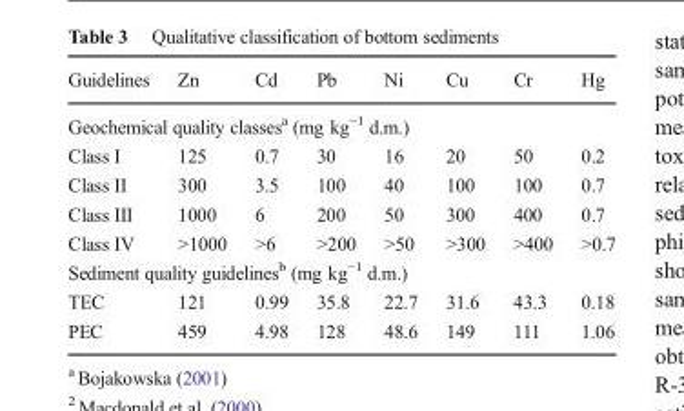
<table><thead><tr><td>Guidelines</td><td>Zn</td><td>Cd</td><td>Pb</td><td>Ni</td><td>Cu</td><td>Cr</td><td>Hg</td></tr></thead><tbody><tr><td colspan="8">Geochemical quality classes<sup>a</sup> (mg kg<sup>−1</sup> d.m.)</td></tr><tr><td>Class I</td><td>125</td><td>0.7</td><td>30</td><td>16</td><td>20</td><td>50</td><td>0.2</td></tr><tr><td>Class II</td><td>300</td><td>3.5</td><td>100</td><td>40</td><td>100</td><td>100</td><td>0.7</td></tr><tr><td>Class III</td><td>1000</td><td>6</td><td>200</td><td>50</td><td>300</td><td>400</td><td>0.7</td></tr><tr><td>Class IV</td><td>&gt;1000</td><td>&gt;6</td><td>&gt;200</td><td>&gt;50</td><td>&gt;300</td><td>&gt;400</td><td>&gt;0.7</td></tr><tr><td colspan="8">Sediment quality guidelines<sup>b</sup> (mg kg<sup>−1</sup> d.m.)</td></tr><tr><td>TEC</td><td>121</td><td>0.99</td><td>35.8</td><td>22.7</td><td>31.6</td><td>43.3</td><td>0.18</td></tr><tr><td>PEC</td><td>459</td><td>4.98</td><td>128</td><td>48.6</td><td>149</td><td>111</td><td>1.06</td></tr></tbody></table>